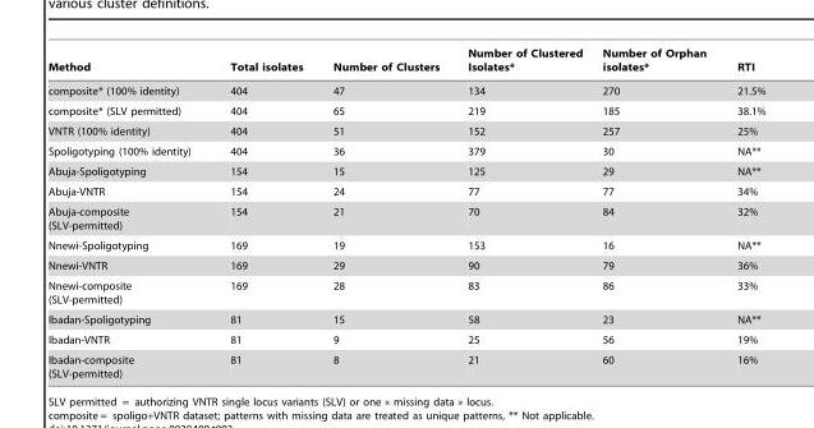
<table><thead><tr><td>Method</td><td>Total isolates</td><td>Number of Clusters</td><td>Number of Clustered Isolates*</td><td>Number of Orphan isolates*</td><td>RTI</td></tr></thead><tbody><tr><td>composite* (100% identity)</td><td>404</td><td>47</td><td>134</td><td>270</td><td>21.5%</td></tr><tr><td>composite* (SLV permitted)</td><td>404</td><td>65</td><td>219</td><td>185</td><td>38.1%</td></tr><tr><td>VNTR (100% identity)</td><td>404</td><td>51</td><td>152</td><td>257</td><td>25%</td></tr><tr><td>Spoligotyping (100% identity)</td><td>404</td><td>36</td><td>379</td><td>30</td><td>NA**</td></tr><tr><td>Abuja-Spoligotyping</td><td>154</td><td>15</td><td>125</td><td>29</td><td>NA**</td></tr><tr><td>Abuja-VNTR</td><td>154</td><td>24</td><td>77</td><td>77</td><td>34%</td></tr><tr><td>Abuja-composite (SLV-permitted)</td><td>154</td><td>21</td><td>70</td><td>84</td><td>32%</td></tr><tr><td>Nnewi-Spoligotyping</td><td>169</td><td>19</td><td>153</td><td>16</td><td>NA**</td></tr><tr><td>Nnewi-VNTR</td><td>169</td><td>29</td><td>90</td><td>79</td><td>36%</td></tr><tr><td>Nnewi-composite (SLV-permitted)</td><td>169</td><td>28</td><td>83</td><td>86</td><td>33%</td></tr><tr><td>Ibadan-Spoligotyping</td><td>81</td><td>15</td><td>58</td><td>23</td><td>NA**</td></tr><tr><td>Ibadan-VNTR</td><td>81</td><td>9</td><td>25</td><td>56</td><td>19%</td></tr><tr><td>Ibadan-composite (SLV-permitted)</td><td>81</td><td>8</td><td>21</td><td>60</td><td>16%</td></tr></tbody></table>